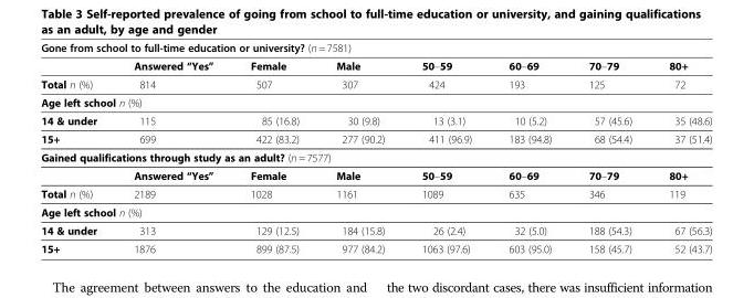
<table><thead><tr><td colspan="8">Gone from school to full-time education or university? (n = 7581)</td></tr><tr><td></td><td>Answered “Yes”</td><td>Female</td><td>Male</td><td>50–59</td><td>60–69</td><td>70–79</td><td>80+</td></tr></thead><tbody><tr><td>Total n (%)</td><td>814</td><td>507</td><td>307</td><td>424</td><td>193</td><td>125</td><td>72</td></tr><tr><td colspan="8">Age left school n (%)</td></tr><tr><td>14 &amp; under</td><td>115</td><td>85 (16.8)</td><td>30 (9.8)</td><td>13 (3.1)</td><td>10 (5.2)</td><td>57 (45.6)</td><td>35 (48.6)</td></tr><tr><td>15+</td><td>699</td><td>422 (83.2)</td><td>277 (90.2)</td><td>411 (96.9)</td><td>183 (94.8)</td><td>68 (54.4)</td><td>37 (51.4)</td></tr><tr><td colspan="8">Gained qualifications through study as an adult? (n = 7577)</td></tr><tr><td></td><td>Answered “Yes”</td><td>Female</td><td>Male</td><td>50–59</td><td>60–69</td><td>70–79</td><td>80+</td></tr><tr><td>Total n (%)</td><td>2189</td><td>1028</td><td>1161</td><td>1089</td><td>635</td><td>346</td><td>119</td></tr><tr><td colspan="8">Age left school n (%)</td></tr><tr><td>14 &amp; under</td><td>313</td><td>129 (12.5)</td><td>184 (15.8)</td><td>26 (2.4)</td><td>32 (5.0)</td><td>188 (54.3)</td><td>67 (56.3)</td></tr><tr><td>15+</td><td>1876</td><td>899 (87.5)</td><td>977 (84.2)</td><td>1063 (97.6)</td><td>603 (95.0)</td><td>158 (45.7)</td><td>52 (43.7)</td></tr></tbody></table>